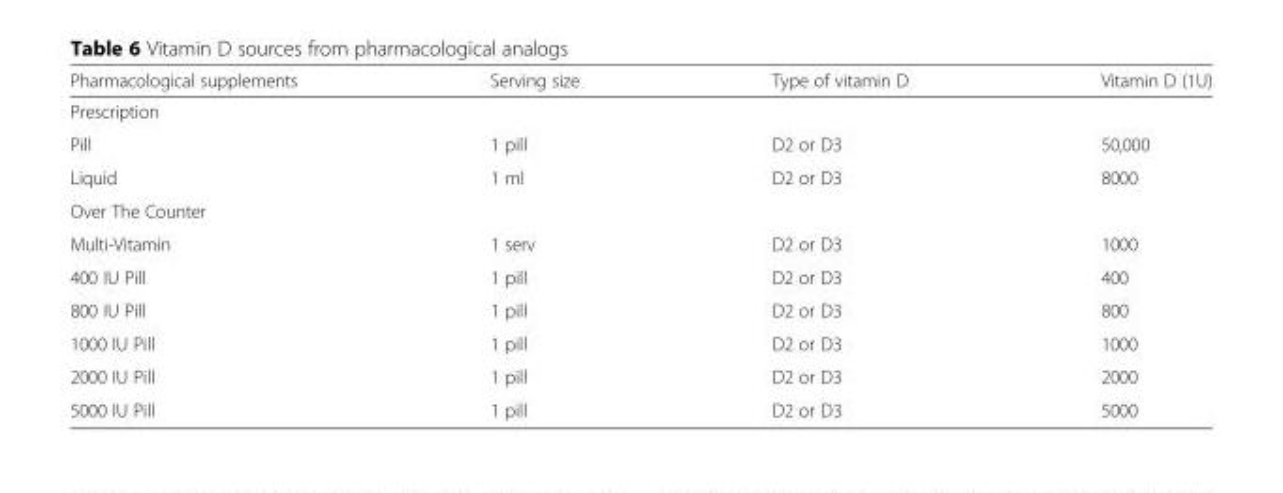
<table><thead><tr><td>Pharmacological supplements</td><td>Serving size</td><td>Type of vitamin D</td><td>Vitamin D (1U)</td></tr></thead><tbody><tr><td colspan="4">Prescription</td></tr><tr><td>Pill</td><td>1 pill</td><td>D2 or D3</td><td>50,000</td></tr><tr><td>Liquid</td><td>1 ml</td><td>D2 or D3</td><td>8000</td></tr><tr><td colspan="4">Over The Counter</td></tr><tr><td>Multi-Vitamin</td><td>1 serv</td><td>D2 or D3</td><td>1000</td></tr><tr><td>400 IU Pill</td><td>1 pill</td><td>D2 or D3</td><td>400</td></tr><tr><td>800 IU Pill</td><td>1 pill</td><td>D2 or D3</td><td>800</td></tr><tr><td>1000 IU Pill</td><td>1 pill</td><td>D2 or D3</td><td>1000</td></tr><tr><td>2000 IU Pill</td><td>1 pill</td><td>D2 or D3</td><td>2000</td></tr><tr><td>5000 IU Pill</td><td>1 pill</td><td>D2 or D3</td><td>5000</td></tr></tbody></table>